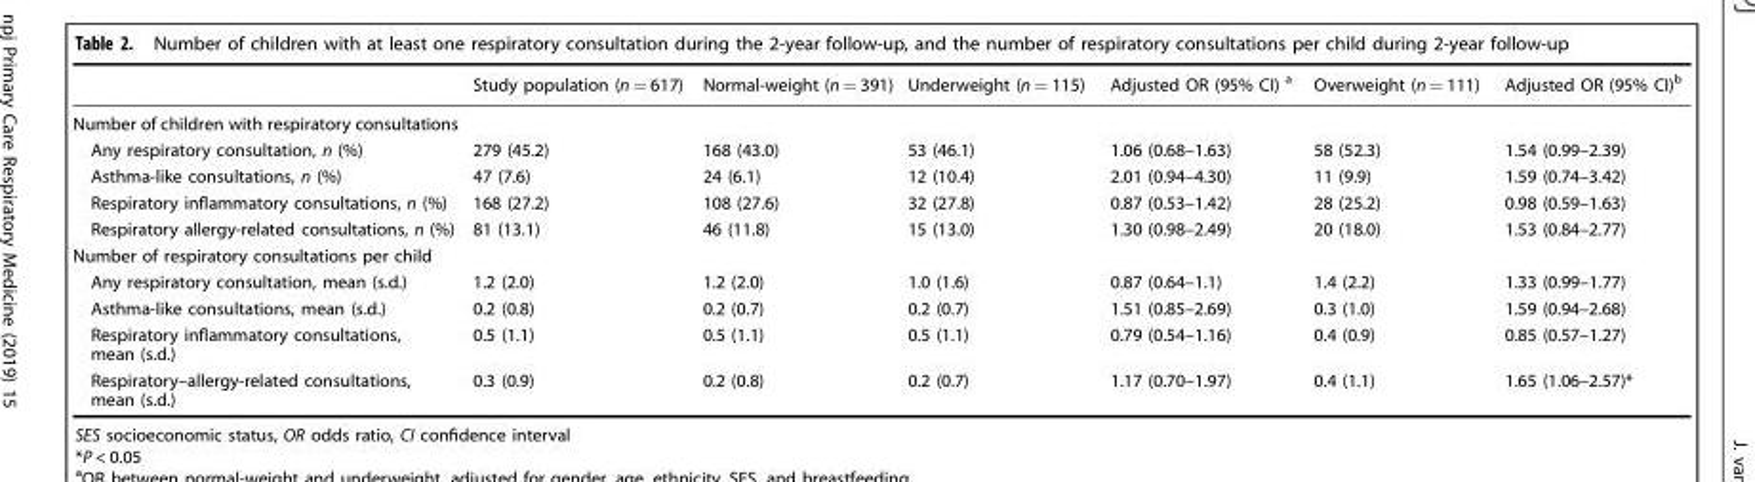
<table><thead><tr><td></td><td>Study population (n = 617)</td><td>Normal-weight (n = 391)</td><td>Underweight (n = 115)</td><td>Adjusted OR (95% CI) <sup>a</sup></td><td>Overweight (n = 111)</td><td>Adjusted OR (95% CI)<sup>b</sup></td></tr></thead><tbody><tr><td colspan="7">Number of children with respiratory consultations</td></tr><tr><td>Any respiratory consultation, n (%)</td><td>279 (45.2)</td><td>168 (43.0)</td><td>53 (46.1)</td><td>1.06 (0.68–1.63)</td><td>58 (52.3)</td><td>1.54 (0.99–2.39)</td></tr><tr><td>Asthma-like consultations, n (%)</td><td>47 (7.6)</td><td>24 (6.1)</td><td>12 (10.4)</td><td>2.01 (0.94–4.30)</td><td>11 (9.9)</td><td>1.59 (0.74–3.42)</td></tr><tr><td>Respiratory inflammatory consultations, n (%)</td><td>168 (27.2)</td><td>108 (27.6)</td><td>32 (27.8)</td><td>0.87 (0.53–1.42)</td><td>28 (25.2)</td><td>0.98 (0.59–1.63)</td></tr><tr><td>Respiratory allergy-related consultations, n (%)</td><td>81 (13.1)</td><td>46 (11.8)</td><td>15 (13.0)</td><td>1.30 (0.98–2.49)</td><td>20 (18.0)</td><td>1.53 (0.84–2.77)</td></tr><tr><td colspan="7">Number of respiratory consultations per child</td></tr><tr><td>Any respiratory consultation, mean (s.d.)</td><td>1.2 (2.0)</td><td>1.2 (2.0)</td><td>1.0 (1.6)</td><td>0.87 (0.64–1.1)</td><td>1.4 (2.2)</td><td>1.33 (0.99–1.77)</td></tr><tr><td>Asthma-like consultations, mean (s.d.)</td><td>0.2 (0.8)</td><td>0.2 (0.7)</td><td>0.2 (0.7)</td><td>1.51 (0.85–2.69)</td><td>0.3 (1.0)</td><td>1.59 (0.94–2.68)</td></tr><tr><td>Respiratory inflammatory consultations, mean (s.d.)</td><td>0.5 (1.1)</td><td>0.5 (1.1)</td><td>0.5 (1.1)</td><td>0.79 (0.54–1.16)</td><td>0.4 (0.9)</td><td>0.85 (0.57–1.27)</td></tr><tr><td>Respiratory–allergy-related consultations, mean (s.d.)</td><td>0.3 (0.9)</td><td>0.2 (0.8)</td><td>0.2 (0.7)</td><td>1.17 (0.70–1.97)</td><td>0.4 (1.1)</td><td>1.65 (1.06–2.57)*</td></tr></tbody></table>